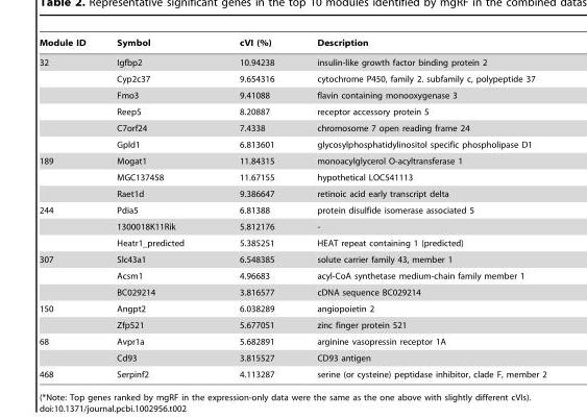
<table><thead><tr><td>Module ID</td><td>Symbol</td><td>cVI (%)</td><td>Description</td></tr></thead><tbody><tr><td rowspan="6">32</td><td>Igfbp2</td><td>10.94238</td><td>insulin-like growth factor binding protein 2</td></tr><tr><td>Cyp2c37</td><td>9.654316</td><td>cytochrome P450, family 2. subfamily c, polypeptide 37</td></tr><tr><td>Fmo3</td><td>9.41088</td><td>flavin containing monooxygenase 3</td></tr><tr><td>Reep5</td><td>8.20887</td><td>receptor accessory protein 5</td></tr><tr><td>C7orf24</td><td>7.4338</td><td>chromosome 7 open reading frame 24</td></tr><tr><td>Gpld1</td><td>6.813601</td><td>glycosylphosphatidylinositol specific phospholipase D1</td></tr><tr><td rowspan="3">189</td><td>Mogat1</td><td>11.84315</td><td>monoacylglycerol O-acyltransferase 1</td></tr><tr><td>MGC137458</td><td>11.67155</td><td>hypothetical LOC541113</td></tr><tr><td>Raet1d</td><td>9.386647</td><td>retinoic acid early transcript delta</td></tr><tr><td rowspan="3">244</td><td>Pdia5</td><td>6.81388</td><td>protein disulfide isomerase associated 5</td></tr><tr><td>1300018K11Rik</td><td>5.812176</td><td>-</td></tr><tr><td>Heatr1_predicted</td><td>5.385251</td><td>HEAT repeat containing 1 (predicted)</td></tr><tr><td rowspan="3">307</td><td>Slc43a1</td><td>6.548385</td><td>solute carrier family 43, member 1</td></tr><tr><td>Acsm1</td><td>4.96683</td><td>acyl-CoA synthetase medium-chain family member 1</td></tr><tr><td>BC029214</td><td>3.816577</td><td>cDNA sequence BC029214</td></tr><tr><td rowspan="2">150</td><td>Angpt2</td><td>6.038289</td><td>angiopoietin 2</td></tr><tr><td>Zfp521</td><td>5.677051</td><td>zinc finger protein 521</td></tr><tr><td rowspan="2">68</td><td>Avpr1a</td><td>5.682891</td><td>arginine vasopressin receptor 1A</td></tr><tr><td>Cd93</td><td>3.815527</td><td>CD93 antigen</td></tr><tr><td>468</td><td>Serpinf2</td><td>4.113287</td><td>serine (or cysteine) peptidase inhibitor, clade F, member 2</td></tr></tbody></table>